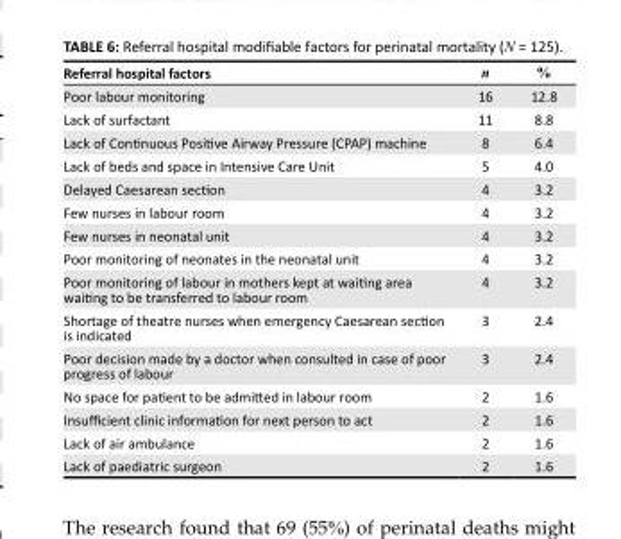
<table><thead><tr><td>Referral hospital factors</td><td>n</td><td>%</td></tr></thead><tbody><tr><td>Poor labour monitoring</td><td>16</td><td>12.8</td></tr><tr><td>Lack of surfactant</td><td>11</td><td>8.8</td></tr><tr><td>Lack of Continuous Positive Airway Pressure (CPAP) machine</td><td>8</td><td>6.4</td></tr><tr><td>Lack of beds and space in Intensive Care Unit</td><td>5</td><td>4.0</td></tr><tr><td>Delayed Caesarean section</td><td>4</td><td>3.2</td></tr><tr><td>Few nurses in labour room</td><td>4</td><td>3.2</td></tr><tr><td>Few nurses in neonatal unit</td><td>4</td><td>3.2</td></tr><tr><td>Poor monitoring of neonates in the neonatal unit</td><td>4</td><td>3.2</td></tr><tr><td>Poor monitoring of labour in mothers kept at waiting area waiting to be transferred to labour room</td><td>4</td><td>3.2</td></tr><tr><td>Shortage of theatre nurses when emergency Caesarean section is indicated</td><td>3</td><td>2.4</td></tr><tr><td>Poor decision made by a doctor when consulted in case of poor progress of labour</td><td>3</td><td>2.4</td></tr><tr><td>No space for patient to be admitted in labour room</td><td>2</td><td>1.6</td></tr><tr><td>Insufficient clinic information for next person to act</td><td>2</td><td>1.6</td></tr><tr><td>Lack of air ambulance</td><td>2</td><td>1.6</td></tr><tr><td>Lack of paediatric surgeon</td><td>2</td><td>1.6</td></tr></tbody></table>